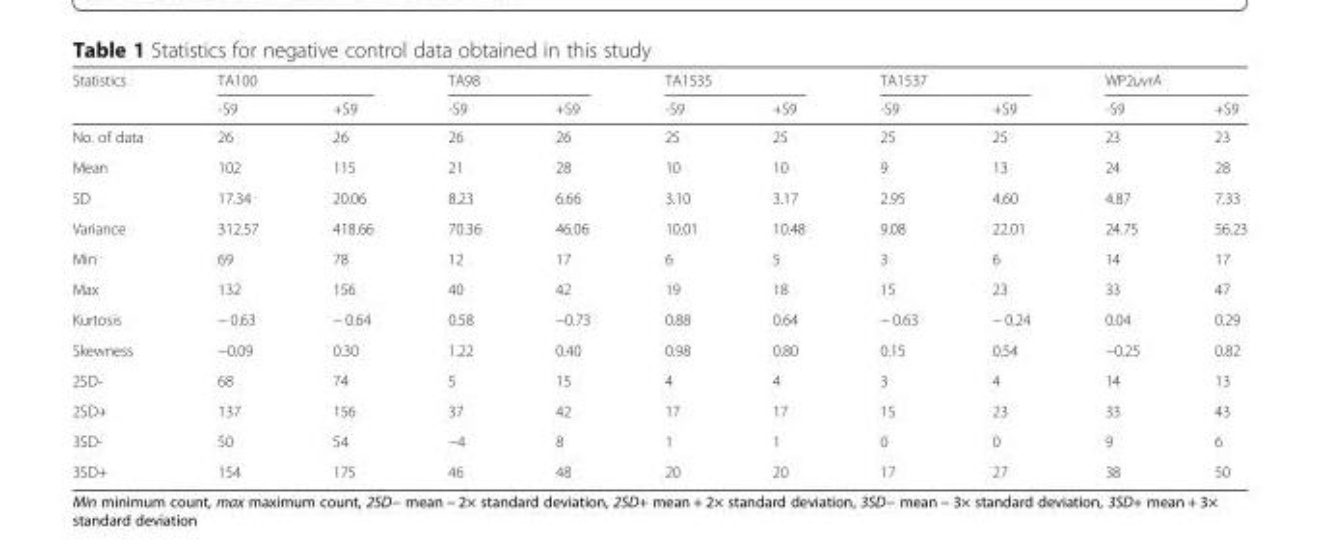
<table><thead><tr><td rowspan="2">Statistics</td><td colspan="2">TA100</td><td colspan="2">TA98</td><td colspan="2">TA1535</td><td colspan="2">TA1537</td><td colspan="2">WP2uvrA</td></tr><tr><td>-S9</td><td>+S9</td><td>-S9</td><td>+S9</td><td>-S9</td><td>+S9</td><td>-S9</td><td>+S9</td><td>-S9</td><td>+S9</td></tr></thead><tbody><tr><td>No. of data</td><td>26</td><td>26</td><td>26</td><td>26</td><td>25</td><td>25</td><td>25</td><td>25</td><td>23</td><td>23</td></tr><tr><td>Mean</td><td>102</td><td>115</td><td>21</td><td>28</td><td>10</td><td>10</td><td>9</td><td>13</td><td>24</td><td>28</td></tr><tr><td>SD</td><td>17.34</td><td>20.06</td><td>8.23</td><td>6.66</td><td>3.10</td><td>3.17</td><td>2.95</td><td>4.60</td><td>4.87</td><td>7.33</td></tr><tr><td>Variance</td><td>312.57</td><td>418.66</td><td>70.36</td><td>46.06</td><td>10.01</td><td>10.48</td><td>9.08</td><td>22.01</td><td>24.75</td><td>56.23</td></tr><tr><td>Min</td><td>69</td><td>78</td><td>12</td><td>17</td><td>6</td><td>5</td><td>3</td><td>6</td><td>14</td><td>17</td></tr><tr><td>Max</td><td>132</td><td>156</td><td>40</td><td>42</td><td>19</td><td>18</td><td>15</td><td>23</td><td>33</td><td>47</td></tr><tr><td>Kurtosis</td><td>− 0.63</td><td>− 0.64</td><td>0.58</td><td>−0.73</td><td>0.88</td><td>0.64</td><td>− 0.63</td><td>− 0.24</td><td>0.04</td><td>0.29</td></tr><tr><td>Skewness</td><td>−0.09</td><td>0.30</td><td>1.22</td><td>0.40</td><td>0.98</td><td>0.80</td><td>0.15</td><td>0.54</td><td>−0.25</td><td>0.82</td></tr><tr><td>2SD-</td><td>68</td><td>74</td><td>5</td><td>15</td><td>4</td><td>4</td><td>3</td><td>4</td><td>14</td><td>13</td></tr><tr><td>2SD+</td><td>137</td><td>156</td><td>37</td><td>42</td><td>17</td><td>17</td><td>15</td><td>23</td><td>33</td><td>43</td></tr><tr><td>3SD-</td><td>50</td><td>54</td><td>−4</td><td>8</td><td>1</td><td>1</td><td>0</td><td>0</td><td>9</td><td>6</td></tr><tr><td>3SD+</td><td>154</td><td>175</td><td>46</td><td>48</td><td>20</td><td>20</td><td>17</td><td>27</td><td>38</td><td>50</td></tr></tbody></table>